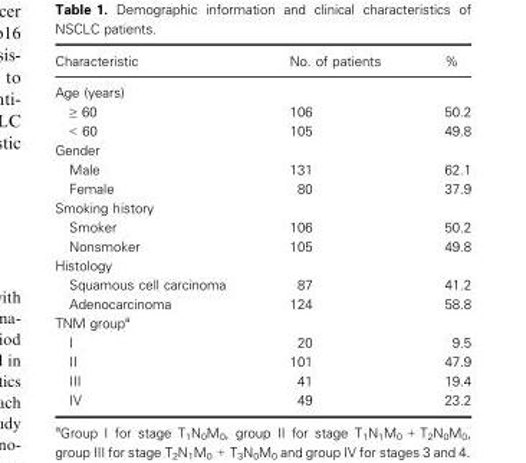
<table><thead><tr><td>Characteristic</td><td>No. of patients</td><td>%</td></tr></thead><tbody><tr><td colspan="3">Age (years)</td></tr><tr><td>≥ 60</td><td>106</td><td>50.2</td></tr><tr><td>&lt; 60</td><td>105</td><td>49.8</td></tr><tr><td colspan="3">Gender</td></tr><tr><td>Male</td><td>131</td><td>62.1</td></tr><tr><td>Female</td><td>80</td><td>37.9</td></tr><tr><td colspan="3">Smoking history</td></tr><tr><td>Smoker</td><td>106</td><td>50.2</td></tr><tr><td>Nonsmoker</td><td>105</td><td>49.8</td></tr><tr><td colspan="3">Histology</td></tr><tr><td>Squamous cell carcinoma</td><td>87</td><td>41.2</td></tr><tr><td>Adenocarcinoma</td><td>124</td><td>58.8</td></tr><tr><td colspan="3">TNM group<sup>a</sup></td></tr><tr><td>I</td><td>20</td><td>9.5</td></tr><tr><td>II</td><td>101</td><td>47.9</td></tr><tr><td>III</td><td>41</td><td>19.4</td></tr><tr><td>IV</td><td>49</td><td>23.2</td></tr></tbody></table>